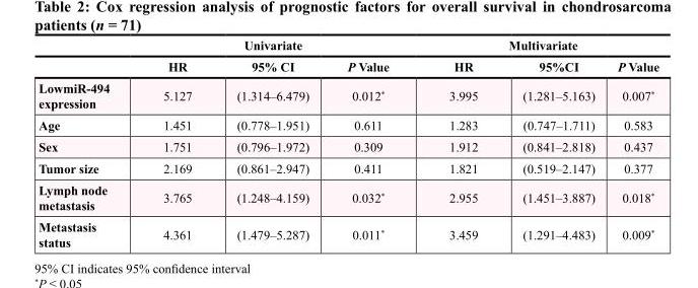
<table><thead><tr><td rowspan="2"></td><td colspan="3">Univariate</td><td colspan="3">Multivariate</td></tr><tr><td>HR</td><td>95% CI</td><td>P Value</td><td>HR</td><td>95%CI</td><td>P Value</td></tr></thead><tbody><tr><td>LowmiR-494 expression</td><td>5.127</td><td>(1.314–6.479)</td><td>0.012*</td><td>3.995</td><td>(1.281–5.163)</td><td>0.007*</td></tr><tr><td>Age</td><td>1.451</td><td>(0.778–1.951)</td><td>0.611</td><td>1.283</td><td>(0.747–1.711)</td><td>0.583</td></tr><tr><td>Sex</td><td>1.751</td><td>(0.796–1.972)</td><td>0.309</td><td>1.912</td><td>(0.841–2.818)</td><td>0.437</td></tr><tr><td>Tumor size</td><td>2.169</td><td>(0.861–2.947)</td><td>0.411</td><td>1.821</td><td>(0.519–2.147)</td><td>0.377</td></tr><tr><td>Lymph node metastasis</td><td>3.765</td><td>(1.248–4.159)</td><td>0.032*</td><td>2.955</td><td>(1.451–3.887)</td><td>0.018*</td></tr><tr><td>Metastasis status</td><td>4.361</td><td>(1.479–5.287)</td><td>0.011*</td><td>3.459</td><td>(1.291–4.483)</td><td>0.009*</td></tr></tbody></table>